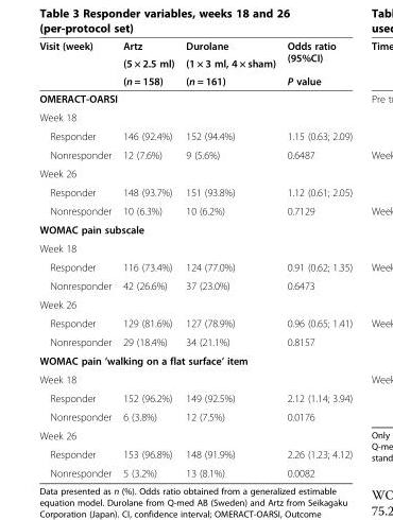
<table><thead><tr><td rowspan="3">Visit (week)</td><td rowspan="3">Artz (5 × 2.5 ml) (n = 158)</td><td rowspan="3">Durolane (1 × 3 ml, 4 × sham) (n = 161)</td><td rowspan="3">Odds ratio (95%CI) P value</td></tr><tr></tr><tr></tr></thead><tbody><tr><td colspan="4">OMERACT-OARSI</td></tr><tr><td colspan="4">Week 18</td></tr><tr><td>Responder</td><td>146 (92.4%)</td><td>152 (94.4%)</td><td>1.15 (0.63; 2.09)</td></tr><tr><td>Nonresponder</td><td>12 (7.6%)</td><td>9 (5.6%)</td><td>0.6487</td></tr><tr><td colspan="4">Week 26</td></tr><tr><td>Responder</td><td>148 (93.7%)</td><td>151 (93.8%)</td><td>1.12 (0.61; 2.05)</td></tr><tr><td>Nonresponder</td><td>10 (6.3%)</td><td>10 (6.2%)</td><td>0.7129</td></tr><tr><td colspan="4">WOMAC pain subscale</td></tr><tr><td colspan="4">Week 18</td></tr><tr><td>Responder</td><td>116 (73.4%)</td><td>124 (77.0%)</td><td>0.91 (0.62; 1.35)</td></tr><tr><td>Nonresponder</td><td>42 (26.6%)</td><td>37 (23.0%)</td><td>0.6473</td></tr><tr><td colspan="4">Week 26</td></tr><tr><td>Responder</td><td>129 (81.6%)</td><td>127 (78.9%)</td><td>0.96 (0.65; 1.41)</td></tr><tr><td>Nonresponder</td><td>29 (18.4%)</td><td>34 (21.1%)</td><td>0.8157</td></tr><tr><td colspan="4">WOMAC pain ‘walking on a flat surface’ item</td></tr><tr><td colspan="4">Week 18</td></tr><tr><td>Responder</td><td>152 (96.2%)</td><td>149 (92.5%)</td><td>2.12 (1.14; 3.94)</td></tr><tr><td>Nonresponder</td><td>6 (3.8%)</td><td>12 (7.5%)</td><td>0.0176</td></tr><tr><td colspan="4">Week 26</td></tr><tr><td>Responder</td><td>153 (96.8%)</td><td>148 (91.9%)</td><td>2.26 (1.23; 4.12)</td></tr><tr><td>Nonresponder</td><td>5 (3.2%)</td><td>13 (8.1%)</td><td>0.0082</td></tr></tbody></table>